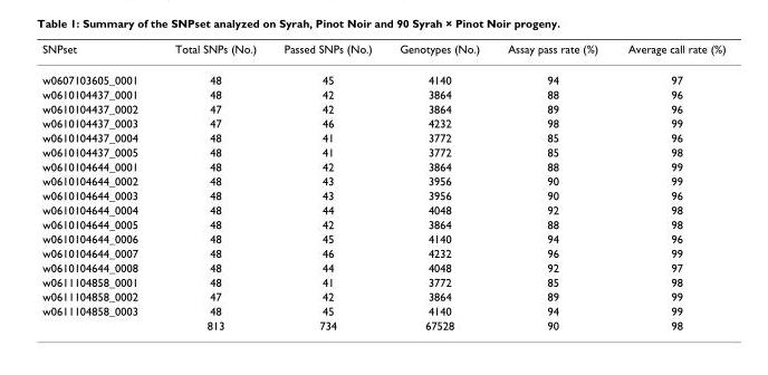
<table><thead><tr><td>SNPset</td><td>Total SNPs (No.)</td><td>Passed SNPs (No.)</td><td>Genotypes (No.)</td><td>Assay pass rate (%)</td><td>Average call rate (%)</td></tr></thead><tbody><tr><td>w0607103605_0001</td><td>48</td><td>45</td><td>4140</td><td>94</td><td>97</td></tr><tr><td>w0610104437_0001</td><td>48</td><td>42</td><td>3864</td><td>88</td><td>96</td></tr><tr><td>w0610104437_0002</td><td>47</td><td>42</td><td>3864</td><td>89</td><td>96</td></tr><tr><td>w0610104437_0003</td><td>47</td><td>46</td><td>4232</td><td>98</td><td>99</td></tr><tr><td>w0610104437_0004</td><td>48</td><td>41</td><td>3772</td><td>85</td><td>96</td></tr><tr><td>w0610104437_0005</td><td>48</td><td>41</td><td>3772</td><td>85</td><td>98</td></tr><tr><td>w0610104644_0001</td><td>48</td><td>42</td><td>3864</td><td>88</td><td>99</td></tr><tr><td>w0610104644_0002</td><td>48</td><td>43</td><td>3956</td><td>90</td><td>99</td></tr><tr><td>w0610104644_0003</td><td>48</td><td>43</td><td>3956</td><td>90</td><td>96</td></tr><tr><td>w0610104644_0004</td><td>48</td><td>44</td><td>4048</td><td>92</td><td>98</td></tr><tr><td>w0610104644_0005</td><td>48</td><td>42</td><td>3864</td><td>88</td><td>98</td></tr><tr><td>w0610104644_0006</td><td>48</td><td>45</td><td>4140</td><td>94</td><td>96</td></tr><tr><td>w0610104644_0007</td><td>48</td><td>46</td><td>4232</td><td>96</td><td>99</td></tr><tr><td>w0610104644_0008</td><td>48</td><td>44</td><td>4048</td><td>92</td><td>97</td></tr><tr><td>w0611104858_0001</td><td>48</td><td>41</td><td>3772</td><td>85</td><td>98</td></tr><tr><td>w0611104858_0002</td><td>47</td><td>42</td><td>3864</td><td>89</td><td>99</td></tr><tr><td rowspan="2">w0611104858_0003</td><td>48</td><td>45</td><td>4140</td><td>94</td><td>99</td></tr><tr><td>813</td><td>734</td><td>67528</td><td>90</td><td>98</td></tr></tbody></table>